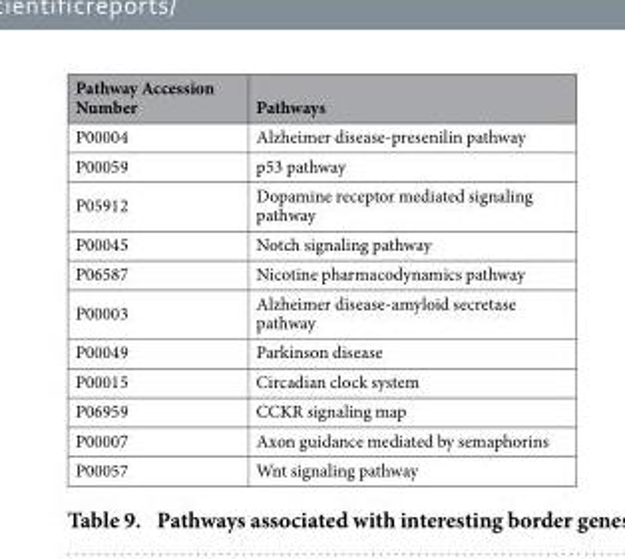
<table><thead><tr><td>Pathway Accession Number</td><td>Pathways</td></tr></thead><tbody><tr><td>P00004</td><td>Alzheimer disease-presenilin pathway</td></tr><tr><td>P00059</td><td>p53 pathway</td></tr><tr><td>P05912</td><td>Dopamine receptor mediated signaling pathway</td></tr><tr><td>P00045</td><td>Notch signaling pathway</td></tr><tr><td>P06587</td><td>Nicotine pharmacodynamics pathway</td></tr><tr><td>P00003</td><td>Alzheimer disease-amyloid secretase pathway</td></tr><tr><td>P00049</td><td>Parkinson disease</td></tr><tr><td>P00015</td><td>Circadian clock system</td></tr><tr><td>P06959</td><td>CCKR signaling map</td></tr><tr><td>P00007</td><td>Axon guidance mediated by semaphorins</td></tr><tr><td>P00057</td><td>Wnt signaling pathway</td></tr></tbody></table>